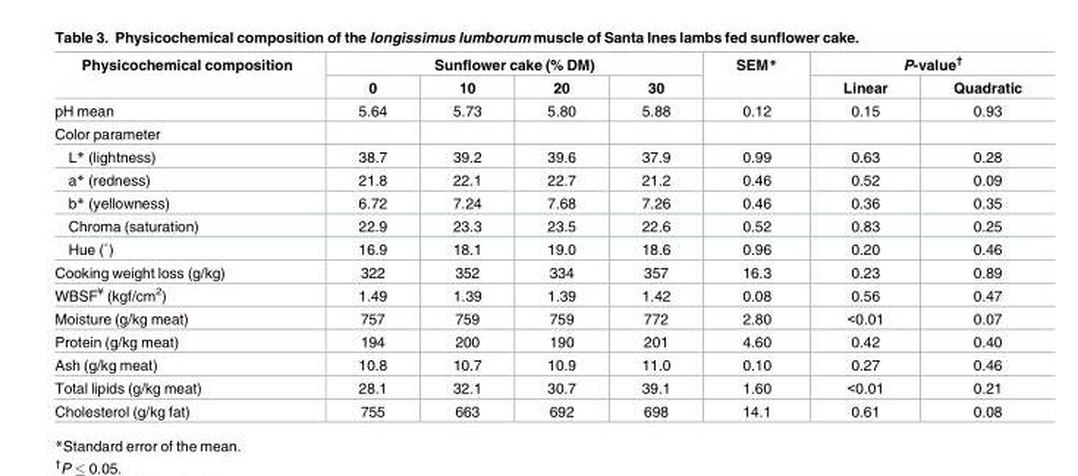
<table><thead><tr><td rowspan="2">Physicochemical composition</td><td colspan="4">Sunflower cake (% DM)</td><td rowspan="2">SEM*</td><td colspan="2">P-value<sup>†</sup></td></tr><tr><td>0</td><td>10</td><td>20</td><td>30</td><td>Linear</td><td>Quadratic</td></tr></thead><tbody><tr><td>pH mean</td><td>5.64</td><td>5.73</td><td>5.80</td><td>5.88</td><td>0.12</td><td>0.15</td><td>0.93</td></tr><tr><td colspan="8">Color parameter</td></tr><tr><td>L* (lightness)</td><td>38.7</td><td>39.2</td><td>39.6</td><td>37.9</td><td>0.99</td><td>0.63</td><td>0.28</td></tr><tr><td>a* (redness)</td><td>21.8</td><td>22.1</td><td>22.7</td><td>21.2</td><td>0.46</td><td>0.52</td><td>0.09</td></tr><tr><td>b* (yellowness)</td><td>6.72</td><td>7.24</td><td>7.68</td><td>7.26</td><td>0.46</td><td>0.36</td><td>0.35</td></tr><tr><td>Chroma (saturation)</td><td>22.9</td><td>23.3</td><td>23.5</td><td>22.6</td><td>0.52</td><td>0.83</td><td>0.25</td></tr><tr><td>Hue (˚)</td><td>16.9</td><td>18.1</td><td>19.0</td><td>18.6</td><td>0.96</td><td>0.20</td><td>0.46</td></tr><tr><td>Cooking weight loss (g/kg)</td><td>322</td><td>352</td><td>334</td><td>357</td><td>16.3</td><td>0.23</td><td>0.89</td></tr><tr><td>WBSF<sup>¥</sup> (kgf/cm<sup>2</sup>)</td><td>1.49</td><td>1.39</td><td>1.39</td><td>1.42</td><td>0.08</td><td>0.56</td><td>0.47</td></tr><tr><td>Moisture (g/kg meat)</td><td>757</td><td>759</td><td>759</td><td>772</td><td>2.80</td><td>&lt;0.01</td><td>0.07</td></tr><tr><td>Protein (g/kg meat)</td><td>194</td><td>200</td><td>190</td><td>201</td><td>4.60</td><td>0.42</td><td>0.40</td></tr><tr><td>Ash (g/kg meat)</td><td>10.8</td><td>10.7</td><td>10.9</td><td>11.0</td><td>0.10</td><td>0.27</td><td>0.46</td></tr><tr><td>Total lipids (g/kg meat)</td><td>28.1</td><td>32.1</td><td>30.7</td><td>39.1</td><td>1.60</td><td>&lt;0.01</td><td>0.21</td></tr><tr><td>Cholesterol (g/kg fat)</td><td>755</td><td>663</td><td>692</td><td>698</td><td>14.1</td><td>0.61</td><td>0.08</td></tr></tbody></table>